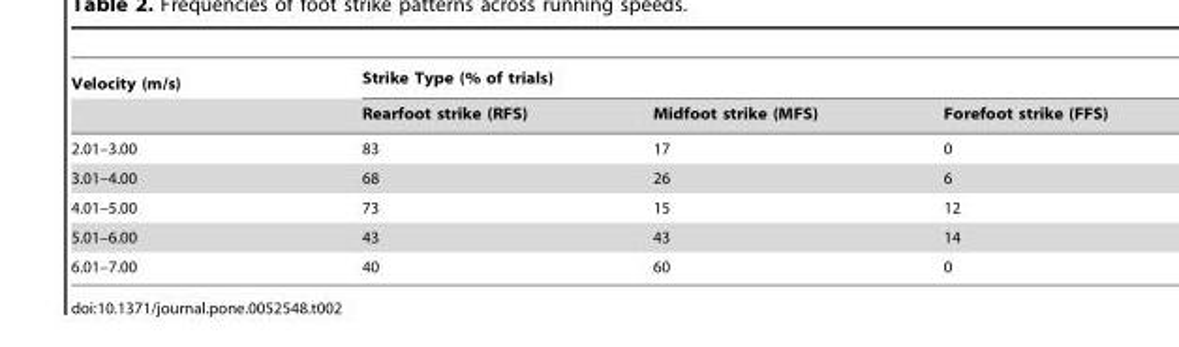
<table><thead><tr><td rowspan="2">Velocity (m/s)</td><td colspan="3">Strike Type (% of trials)</td></tr><tr><td>Rearfoot strike (RFS)</td><td>Midfoot strike (MFS)</td><td>Forefoot strike (FFS)</td></tr></thead><tbody><tr><td>2.01–3.00</td><td>83</td><td>17</td><td>0</td></tr><tr><td>3.01–4.00</td><td>68</td><td>26</td><td>6</td></tr><tr><td>4.01–5.00</td><td>73</td><td>15</td><td>12</td></tr><tr><td>5.01–6.00</td><td>43</td><td>43</td><td>14</td></tr><tr><td>6.01–7.00</td><td>40</td><td>60</td><td>0</td></tr></tbody></table>